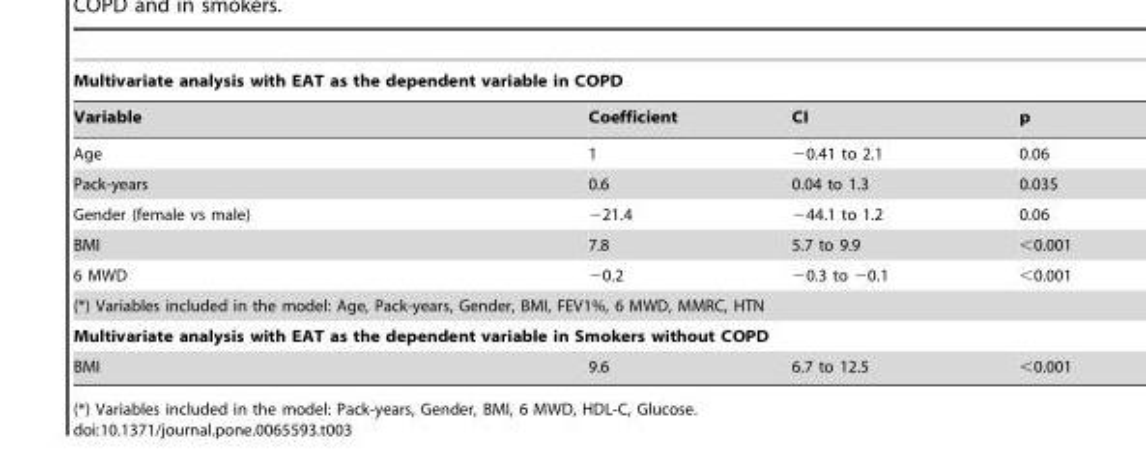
<table><thead><tr><td colspan="4">Multivariate analysis with EAT as the dependent variable in COPD</td></tr><tr><td>Variable</td><td>Coefficient</td><td>CI</td><td>p</td></tr></thead><tbody><tr><td>Age</td><td>1</td><td>−0.41 to 2.1</td><td>0.06</td></tr><tr><td>Pack-years</td><td>0.6</td><td>0.04 to 1.3</td><td>0.035</td></tr><tr><td>Gender (female vs male)</td><td>−21.4</td><td>−44.1 to 1.2</td><td>0.06</td></tr><tr><td>BMI</td><td>7.8</td><td>5.7 to 9.9</td><td>&lt;0.001</td></tr><tr><td>6 MWD</td><td>−0.2</td><td>−0.3 to −0.1</td><td>&lt;0.001</td></tr><tr><td colspan="4">(*) Variables included in the model: Age, Pack-years, Gender, BMI, FEV1%, 6 MWD, MMRC, HTN</td></tr><tr><td colspan="4">Multivariate analysis with EAT as the dependent variable in Smokers without COPD</td></tr><tr><td>BMI</td><td>9.6</td><td>6.7 to 12.5</td><td>&lt;0.001</td></tr></tbody></table>